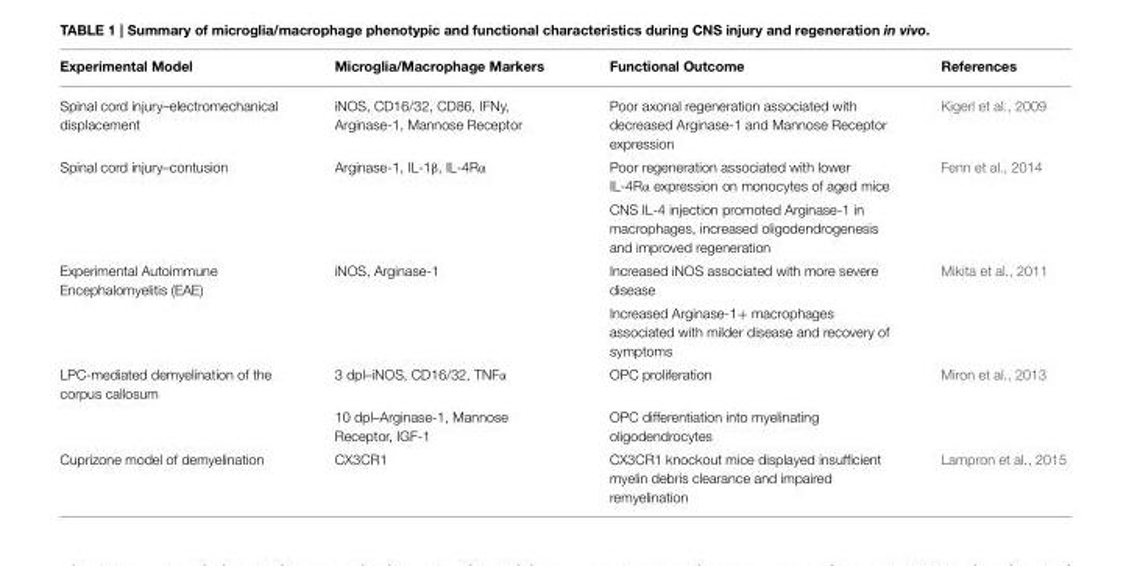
<table><thead><tr><td>Experimental Model</td><td>Microglia/Macrophage Markers</td><td>Functional Outcome</td><td>References</td></tr></thead><tbody><tr><td>Spinal cord injury–electromechanical displacement</td><td>iNOS, CD16/32, CD86, IFNy, Arginase-1, Mannose Receptor</td><td>Poor axonal regeneration associated with decreased Arginase-1 and Mannose Receptor expression</td><td>Kigerl et al., 2009</td></tr><tr><td rowspan="2">Spinal cord injury–contusion</td><td>Arginase-1, IL-1β, IL-4Rα</td><td>Poor regeneration associated with lower IL-4Rα expression on monocytes of aged mice</td><td>Fenn et al., 2014</td></tr><tr><td></td><td>CNS IL-4 injection promoted Arginase-1 in macrophages, increased oligodendrogenesis and improved regeneration</td><td></td></tr><tr><td rowspan="2">Experimental Autoimmune Encephalomyelitis (EAE)</td><td>iNOS, Arginase-1</td><td>Increased iNOS associated with more severe disease</td><td>Mikita et al., 2011</td></tr><tr><td></td><td>Increased Arginase-1+ macrophages associated with milder disease and recovery of symptoms</td><td></td></tr><tr><td rowspan="2">LPC-mediated demyelination of the corpus callosum</td><td>3 dpl–iNOS, CD16/32, TNFα</td><td>OPC proliferation</td><td>Miron et al., 2013</td></tr><tr><td>10 dpl–Arginase-1, Mannose Receptor, IGF-1</td><td>OPC differentiation into myelinating oligodendrocytes</td><td></td></tr><tr><td>Cuprizone model of demyelination</td><td>CX3CR1</td><td>CX3CR1 knockout mice displayed insufficient myelin debris clearance and impaired remyelination</td><td>Lampron et al., 2015</td></tr></tbody></table>